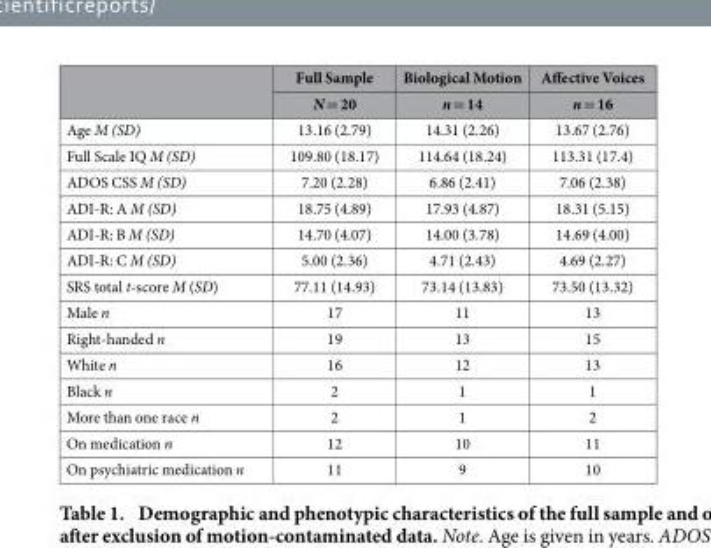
<table><thead><tr><td rowspan="2"></td><td rowspan="2">Full Sample N = 20</td><td rowspan="2">Biological Motion n = 14</td><td rowspan="2">Affective Voices n = 16</td></tr><tr></tr></thead><tbody><tr><td>Age M (SD)</td><td>13.16 (2.79)</td><td>14.31 (2.26)</td><td>13.67 (2.76)</td></tr><tr><td>Full Scale IQ M (SD)</td><td>109.80 (18.17)</td><td>114.64 (18.24)</td><td>113.31 (17.4)</td></tr><tr><td>ADOS CSS M (SD)</td><td>7.20 (2.28)</td><td>6.86 (2.41)</td><td>7.06 (2.38)</td></tr><tr><td>ADI-R: A M (SD)</td><td>18.75 (4.89)</td><td>17.93 (4.87)</td><td>18.31 (5.15)</td></tr><tr><td>ADI-R: B M (SD)</td><td>14.70 (4.07)</td><td>14.00 (3.78)</td><td>14.69 (4.00)</td></tr><tr><td>ADI-R: C M (SD)</td><td>5.00 (2.36)</td><td>4.71 (2.43)</td><td>4.69 (2.27)</td></tr><tr><td>SRS total t-score M (SD)</td><td>77.11 (14.93)</td><td>73.14 (13.83)</td><td>73.50 (13.32)</td></tr><tr><td>Male n</td><td>17</td><td>11</td><td>13</td></tr><tr><td>Right-handed n</td><td>19</td><td>13</td><td>15</td></tr><tr><td>White n</td><td>16</td><td>12</td><td>13</td></tr><tr><td>Black n</td><td>2</td><td>1</td><td>1</td></tr><tr><td>More than one race n</td><td>2</td><td>1</td><td>2</td></tr><tr><td>On medication n</td><td>12</td><td>10</td><td>11</td></tr><tr><td>On psychiatric medication n</td><td>11</td><td>9</td><td>10</td></tr></tbody></table>